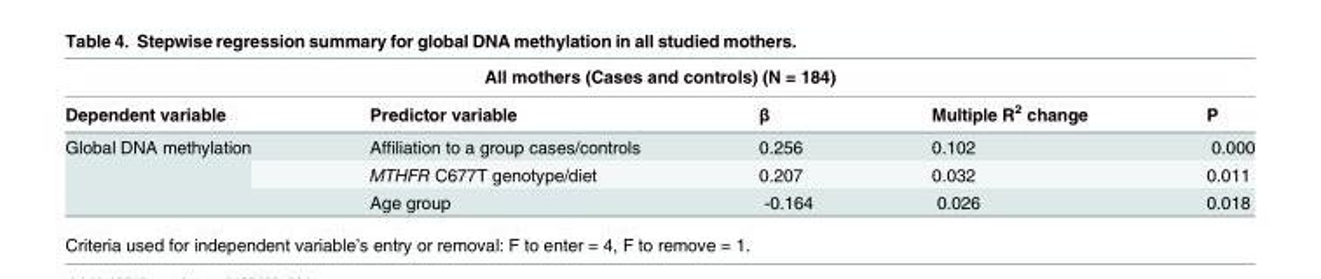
<table><thead><tr><td colspan="5">All mothers (Cases and controls) (N = 184)</td></tr><tr><td>Dependent variable</td><td>Predictor variable</td><td>β</td><td>Multiple R<sup>2</sup> change</td><td>P</td></tr></thead><tbody><tr><td rowspan="3">Global DNA methylation</td><td>Affiliation to a group cases/controls</td><td>0.256</td><td>0.102</td><td>0.000</td></tr><tr><td>MTHFR C677T genotype/diet</td><td>0.207</td><td>0.032</td><td>0.011</td></tr><tr><td>Age group</td><td>-0.164</td><td>0.026</td><td>0.018</td></tr></tbody></table>